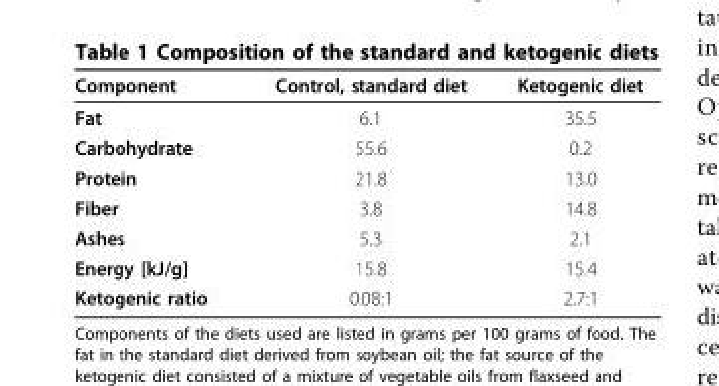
<table><thead><tr><td>Component</td><td>Control, standard diet</td><td>Ketogenic diet</td></tr></thead><tbody><tr><td>Fat</td><td>6.1</td><td>35.5</td></tr><tr><td>Carbohydrate</td><td>55.6</td><td>0.2</td></tr><tr><td>Protein</td><td>21.8</td><td>13.0</td></tr><tr><td>Fiber</td><td>3.8</td><td>14.8</td></tr><tr><td>Ashes</td><td>5.3</td><td>2.1</td></tr><tr><td>Energy [kJ/g]</td><td>15.8</td><td>15.4</td></tr><tr><td>Ketogenic ratio</td><td>0.08:1</td><td>2.7:1</td></tr></tbody></table>